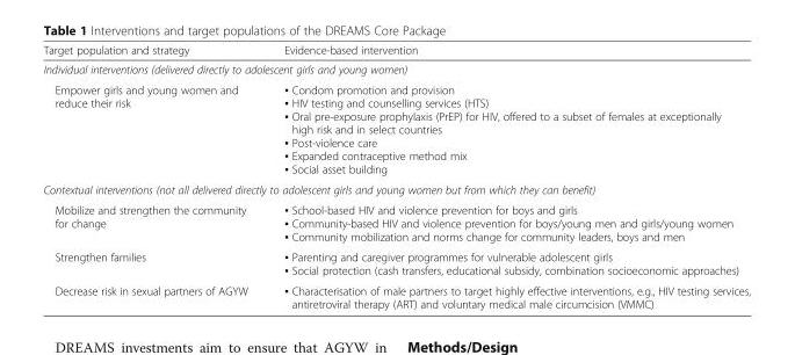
<table><thead><tr><td>Target population and strategy</td><td>Evidence-based intervention</td></tr></thead><tbody><tr><td colspan="2">Individual interventions (delivered directly to adolescent girls and young women)</td></tr><tr><td>Empower girls and young women and reduce their risk</td><td>▪ Condom promotion and provision ▪ HIV testing and counselling services (HTS) ▪ Oral pre-exposure prophylaxis (PrEP) for HIV, offered to a subset of females at exceptionally high risk and in select countries ▪ Post-violence care ▪ Expanded contraceptive method mix ▪ Social asset building</td></tr><tr><td colspan="2">Contextual interventions (not all delivered directly to adolescent girls and young women but from which they can benefit)</td></tr><tr><td>Mobilize and strengthen the community for change</td><td>▪ School-based HIV and violence prevention for boys and girls ▪ Community-based HIV and violence prevention for boys/young men and girls/young women ▪ Community mobilization and norms change for community leaders, boys and men</td></tr><tr><td>Strengthen families</td><td>▪ Parenting and caregiver programmes for vulnerable adolescent girls ▪ Social protection (cash transfers, educational subsidy, combination socioeconomic approaches)</td></tr><tr><td>Decrease risk in sexual partners of AGYW</td><td>▪ Characterisation of male partners to target highly effective interventions, e.g., HIV testing services, antiretroviral therapy (ART) and voluntary medical male circumcision (VMMC)</td></tr></tbody></table>